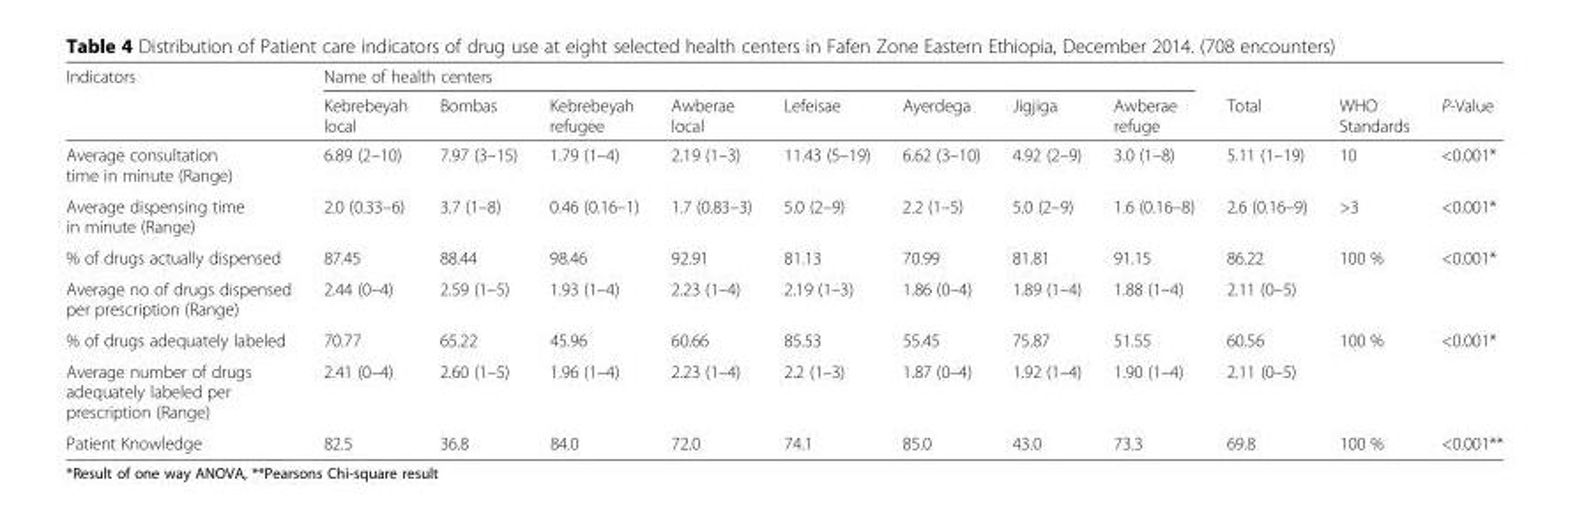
<table><thead><tr><td rowspan="2">Indicators</td><td colspan="8">Name of health centers</td><td rowspan="2">Total</td><td rowspan="2">WHO Standards</td><td rowspan="2">P-Value</td></tr><tr><td>Kebrebeyah local</td><td>Bombas</td><td>Kebrebeyah refugee</td><td>Awberae local</td><td>Lefeisae</td><td>Ayerdega</td><td>Jigjiga</td><td>Awberae refuge</td></tr></thead><tbody><tr><td>Average consultation time in minute (Range)</td><td>6.89 (2–10)</td><td>7.97 (3–15)</td><td>1.79 (1–4)</td><td>2.19 (1–3)</td><td>11.43 (5–19)</td><td>6.62 (3–10)</td><td>4.92 (2–9)</td><td>3.0 (1–8)</td><td>5.11 (1–19)</td><td>10</td><td>&lt;0.001*</td></tr><tr><td>Average dispensing time in minute (Range)</td><td>2.0 (0.33–6)</td><td>3.7 (1–8)</td><td>0.46 (0.16–1)</td><td>1.7 (0.83–3)</td><td>5.0 (2–9)</td><td>2.2 (1–5)</td><td>5.0 (2–9)</td><td>1.6 (0.16–8)</td><td>2.6 (0.16–9)</td><td>&gt;3</td><td>&lt;0.001*</td></tr><tr><td>% of drugs actually dispensed</td><td>87.45</td><td>88.44</td><td>98.46</td><td>92.91</td><td>81.13</td><td>70.99</td><td>81.81</td><td>91.15</td><td>86.22</td><td>100 %</td><td rowspan="2">&lt;0.001*</td></tr><tr><td>Average no of drugs dispensed per prescription (Range)</td><td>2.44 (0–4)</td><td>2.59 (1–5)</td><td>1.93 (1–4)</td><td>2.23 (1–4)</td><td>2.19 (1–3)</td><td>1.86 (0–4)</td><td>1.89 (1–4)</td><td>1.88 (1–4)</td><td>2.11 (0–5)</td><td></td></tr><tr><td>% of drugs adequately labeled</td><td>70.77</td><td>65.22</td><td>45.96</td><td>60.66</td><td>85.53</td><td>55.45</td><td>75.87</td><td>51.55</td><td>60.56</td><td>100 %</td><td rowspan="2">&lt;0.001*</td></tr><tr><td>Average number of drugs adequately labeled per prescription (Range)</td><td>2.41 (0–4)</td><td>2.60 (1–5)</td><td>1.96 (1–4)</td><td>2.23 (1–4)</td><td>2.2 (1–3)</td><td>1.87 (0–4)</td><td>1.92 (1–4)</td><td>1.90 (1–4)</td><td>2.11 (0–5)</td><td></td></tr><tr><td>Patient Knowledge</td><td>82.5</td><td>36.8</td><td>84.0</td><td>72.0</td><td>74.1</td><td>85.0</td><td>43.0</td><td>73.3</td><td>69.8</td><td>100 %</td><td>&lt;0.001**</td></tr></tbody></table>